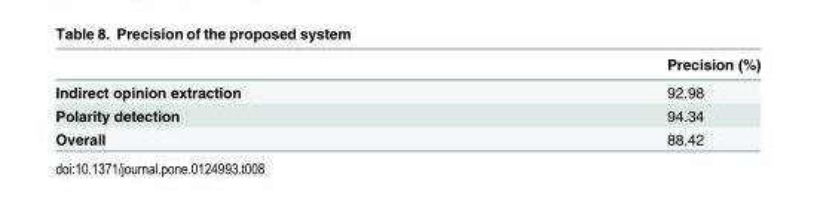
<table><thead><tr><td></td><td>Precision (%)</td></tr></thead><tbody><tr><td>Indirect opinion extraction</td><td>92.98</td></tr><tr><td>Polarity detection</td><td>94.34</td></tr><tr><td>Overall</td><td>88.42</td></tr></tbody></table>